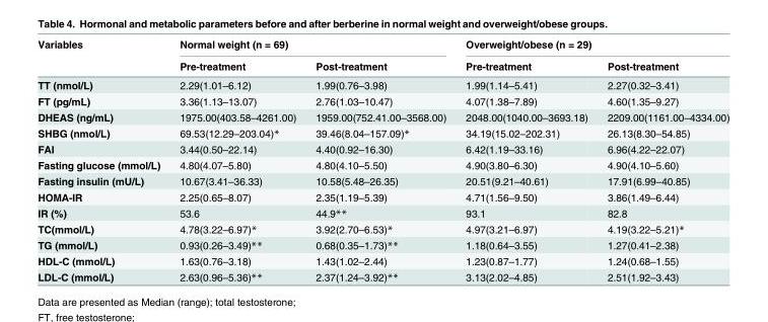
<table><thead><tr><td rowspan="2">Variables</td><td colspan="2">Normal weight (n = 69)</td><td colspan="2">Overweight/obese (n = 29)</td></tr><tr><td>Pre-treatment</td><td>Post-treatment</td><td>Pre-treatment</td><td>Post-treatment</td></tr></thead><tbody><tr><td>TT (nmol/L)</td><td>2.29(1.01–6.12)</td><td>1.99(0.76–3.98)</td><td>1.99(1.14–5.41)</td><td>2.27(0.32–3.41)</td></tr><tr><td>FT (pg/mL)</td><td>3.36(1.13–13.07)</td><td>2.76(1.03–10.47)</td><td>4.07(1.38–7.89)</td><td>4.60(1.35–9.27)</td></tr><tr><td>DHEAS (ng/mL)</td><td>1975.00(403.58–4261.00)</td><td>1959.00(752.41.00–3568.00)</td><td>2048.00(1040.00–3693.18)</td><td>2209.00(1161.00–4334.00)</td></tr><tr><td>SHBG (nmol/L)</td><td>69.53(12.29–203.04)*</td><td>39.46(8.04–157.09)*</td><td>34.19(15.02–202.31)</td><td>26.13(8.30–54.85)</td></tr><tr><td>FAI</td><td>3.44(0.50–22.14)</td><td>4.40(0.92–16.30)</td><td>6.42(1.19–33.16)</td><td>6.96(4.22–22.07)</td></tr><tr><td>Fasting glucose (mmol/L)</td><td>4.80(4.07–5.80)</td><td>4.80(4.10–5.50)</td><td>4.90(3.80–6.30)</td><td>4.90(4.10–5.60)</td></tr><tr><td>Fasting insulin (mU/L)</td><td>10.67(3.41–36.33)</td><td>10.58(5.48–26.35)</td><td>20.51(9.21–40.61)</td><td>17.91(6.99–40.85)</td></tr><tr><td>HOMA-IR</td><td>2.25(0.65–8.07)</td><td>2.35(1.19–5.39)</td><td>4.71(1.56–9.50)</td><td>3.86(1.49–6.44)</td></tr><tr><td>IR (%)</td><td>53.6</td><td>44.9**</td><td>93.1</td><td>82.8</td></tr><tr><td>TC(mmol/L)</td><td>4.78(3.22–6.97)*</td><td>3.92(2.70–6.53)*</td><td>4.97(3.21–6.97)</td><td>4.19(3.22–5.21)*</td></tr><tr><td>TG (mmol/L)</td><td>0.93(0.26–3.49)**</td><td>0.68(0.35–1.73)**</td><td>1.18(0.64–3.55)</td><td>1.27(0.41–2.38)</td></tr><tr><td>HDL-C (mmol/L)</td><td>1.63(0.76–3.18)</td><td>1.43(1.02–2.44)</td><td>1.23(0.87–1.77)</td><td>1.24(0.68–1.55)</td></tr><tr><td>LDL-C (mmol/L)</td><td>2.63(0.96–5.36)**</td><td>2.37(1.24–3.92)**</td><td>3.13(2.02–4.85)</td><td>2.51(1.92–3.43)</td></tr></tbody></table>